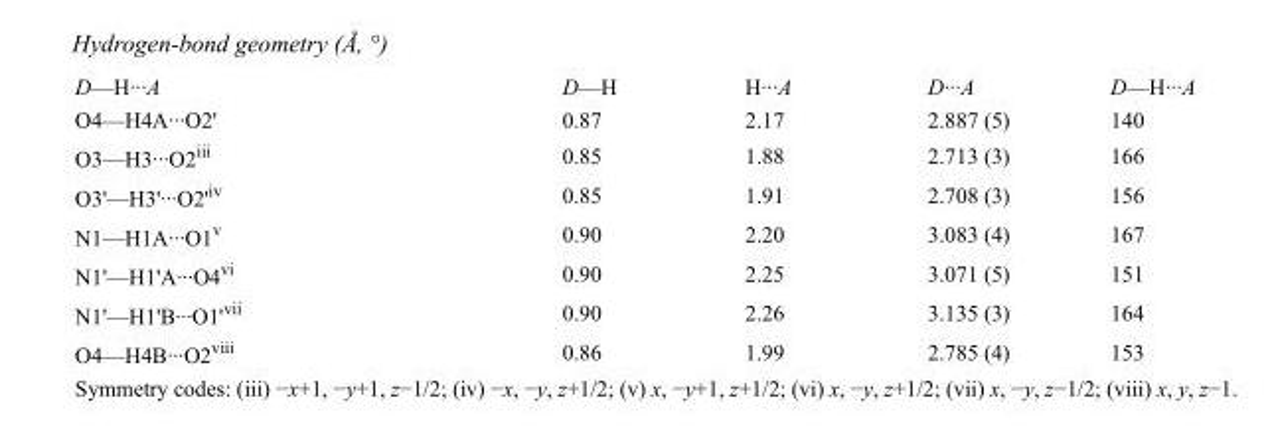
<table><tbody><tr><td>D—H···A</td><td>D—H</td><td>H···A</td><td>D···A</td><td>D—H···A</td></tr><tr><td>O4—H4A···O2&#x27;</td><td>0.87</td><td>2.17</td><td>2.887 (5)</td><td>140</td></tr><tr><td>O3—H3···O2<sup>iii</sup></td><td>0.85</td><td>1.88</td><td>2.713 (3)</td><td>166</td></tr><tr><td>O3&#x27;—H3&#x27;···O2&#x27;<sup>iv</sup></td><td>0.85</td><td>1.91</td><td>2.708 (3)</td><td>156</td></tr><tr><td>N1—H1A···O1<sup>v</sup></td><td>0.90</td><td>2.20</td><td>3.083 (4)</td><td>167</td></tr><tr><td>N1&#x27;—H1&#x27;A···O4<sup>vi</sup></td><td>0.90</td><td>2.25</td><td>3.071 (5)</td><td>151</td></tr><tr><td>N1&#x27;—H1&#x27;B···O1&#x27;<sup>vii</sup></td><td>0.90</td><td>2.26</td><td>3.135 (3)</td><td>164</td></tr><tr><td>O4—H4B···O2<sup>viii</sup></td><td>0.86</td><td>1.99</td><td>2.785 (4)</td><td>153</td></tr></tbody></table>